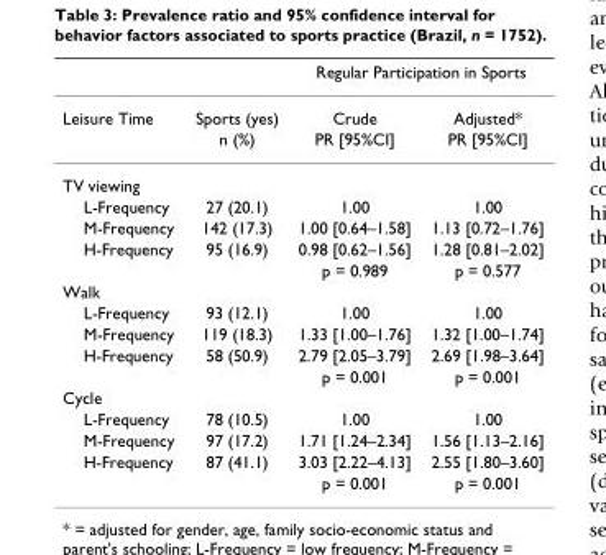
<table><thead><tr><td rowspan="2">Leisure Time</td><td rowspan="2">Sports (yes)</td><td colspan="2">Regular Participation in Sports</td></tr><tr><td>Crude</td><td>Adjusted*</td></tr></thead><tbody><tr><td></td><td>n (%)</td><td>PR [95%CI]</td><td>PR [95%CI]</td></tr><tr><td colspan="4">TV viewing</td></tr><tr><td>L-Frequency</td><td>27 (20.1)</td><td>1.00</td><td>1.00</td></tr><tr><td>M-Frequency</td><td>142 (17.3)</td><td>1.00 [0.64–1.58]</td><td>1.13 [0.72–1.76]</td></tr><tr><td rowspan="2">H-Frequency</td><td>95 (16.9)</td><td>0.98 [0.62–1.56]</td><td>1.28 [0.81–2.02]</td></tr><tr><td></td><td>p = 0.989</td><td>p = 0.577</td></tr><tr><td colspan="4">Walk</td></tr><tr><td>L-Frequency</td><td>93 (12.1)</td><td>1.00</td><td>1.00</td></tr><tr><td>M-Frequency</td><td>119 (18.3)</td><td>1.33 [1.00–1.76]</td><td>1.32 [1.00–1.74]</td></tr><tr><td rowspan="2">H-Frequency</td><td>58 (50.9)</td><td>2.79 [2.05–3.79]</td><td>2.69 [1.98–3.64]</td></tr><tr><td></td><td>p = 0.001</td><td>p = 0.001</td></tr><tr><td colspan="4">Cycle</td></tr><tr><td>L-Frequency</td><td>78 (10.5)</td><td>1.00</td><td>1.00</td></tr><tr><td>M-Frequency</td><td>97 (17.2)</td><td>1.71 [1.24–2.34]</td><td>1.56 [1.13–2.16]</td></tr><tr><td rowspan="2">H-Frequency</td><td>87 (41.1)</td><td>3.03 [2.22–4.13]</td><td>2.55 [1.80–3.60]</td></tr><tr><td></td><td>p = 0.001</td><td>p = 0.001</td></tr></tbody></table>